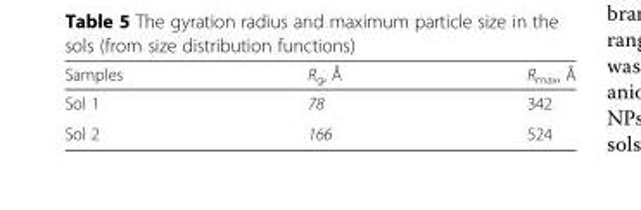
<table><thead><tr><td>Samples</td><td>R<sub>g</sub>, Å</td><td>R<sub>max</sub>, Å</td></tr></thead><tbody><tr><td>Sol 1</td><td>78</td><td>342</td></tr><tr><td>Sol 2</td><td>166</td><td>524</td></tr></tbody></table>